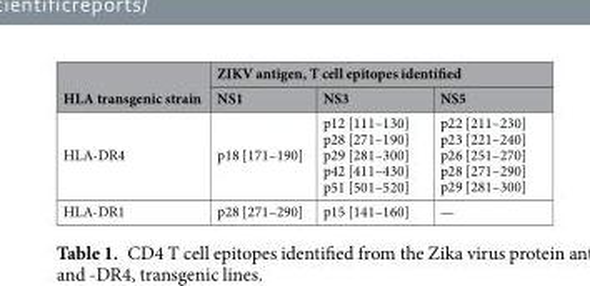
<table><thead><tr><td rowspan="2">HLA transgenic strain</td><td colspan="3">ZIKV antigen, T cell epitopes identified</td></tr><tr><td>NS1</td><td>NS3</td><td>NS5</td></tr></thead><tbody><tr><td>HLA-DR4</td><td>p18 [171–190]</td><td>p12 [111–130] p28 [271–190] p29 [281–300] p42 [411–430] p51 [501–520]</td><td>p22 [211–230] p23 [221–240] p26 [251–270] p28 [271–290] p29 [281–300]</td></tr><tr><td>HLA-DR1</td><td>p28 [271–290]</td><td>p15 [141–160]</td><td>—</td></tr></tbody></table>